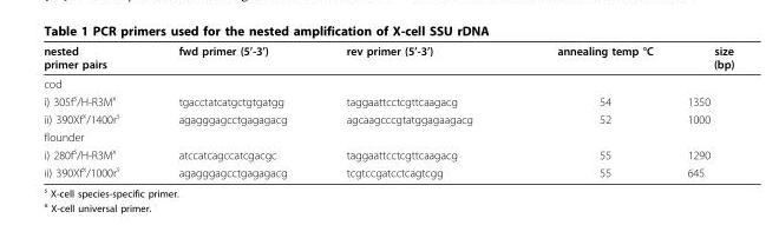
<table><thead><tr><td>nested primer pairs</td><td>fwd primer (5’-3’)</td><td>rev primer (5’-3’)</td><td>annealing temp °C</td><td>size (bp)</td></tr></thead><tbody><tr><td colspan="5">cod</td></tr><tr><td>i) 305f<sup>s</sup>/H-R3M<sup>x</sup></td><td>tgacctatcatgctgtgatgg</td><td>taggaattcctcgttcaagacg</td><td>54</td><td>1350</td></tr><tr><td>ii) 390Xf<sup>x</sup>/1400r<sup>s</sup></td><td>agagggagcctgagagacg</td><td>agcaagcccgtatggagaagacg</td><td>52</td><td>1000</td></tr><tr><td colspan="5">flounder</td></tr><tr><td>i) 280f<sup>s</sup>/H-R3M<sup>x</sup></td><td>atccatcagccatcgacgc</td><td>taggaattcctcgttcaagacg</td><td>55</td><td>1290</td></tr><tr><td>ii) 390Xf<sup>x</sup>/1000r<sup>s</sup></td><td>agagggagcctgagagacg</td><td>tcgtccgatcctcagtcgg</td><td>55</td><td>645</td></tr></tbody></table>